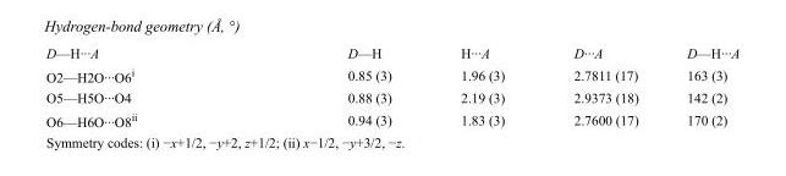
<table><tbody><tr><td>D—H···A</td><td>D—H</td><td>H···A</td><td>D···A</td><td>D—H···A</td></tr><tr><td>O2—H2O···O6<sup>i</sup></td><td>0.85 (3)</td><td>1.96 (3)</td><td>2.7811 (17)</td><td>163 (3)</td></tr><tr><td>O5—H5O···O4</td><td>0.88 (3)</td><td>2.19 (3)</td><td>2.9373 (18)</td><td>142 (2)</td></tr><tr><td>O6—H6O···O8<sup>ii</sup></td><td>0.94 (3)</td><td>1.83 (3)</td><td>2.7600 (17)</td><td>170 (2)</td></tr></tbody></table>